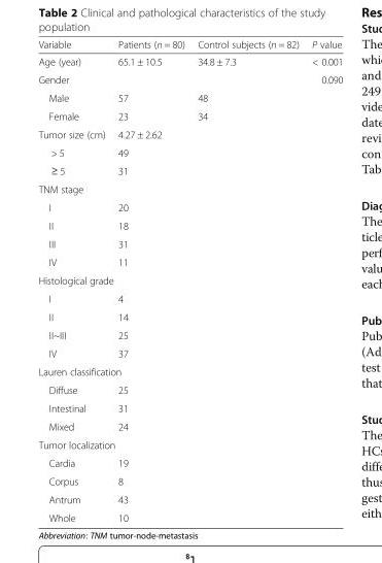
<table><thead><tr><td>Variable</td><td>Patients (n = 80)</td><td>Control subjects (n = 82)</td><td>P value</td></tr></thead><tbody><tr><td>Age (year)</td><td>65.1 ± 10.5</td><td>34.8 ± 7.3</td><td>&lt; 0.001</td></tr><tr><td>Gender</td><td></td><td></td><td>0.090</td></tr><tr><td>Male</td><td>57</td><td>48</td><td></td></tr><tr><td>Female</td><td>23</td><td>34</td><td></td></tr><tr><td>Tumor size (cm)</td><td>4.27 ± 2.62</td><td></td><td></td></tr><tr><td>&gt; 5</td><td>49</td><td></td><td></td></tr><tr><td>≥ 5</td><td>31</td><td></td><td></td></tr><tr><td colspan="4">TNM stage</td></tr><tr><td>I</td><td>20</td><td></td><td></td></tr><tr><td>II</td><td>18</td><td></td><td></td></tr><tr><td>III</td><td>31</td><td></td><td></td></tr><tr><td>IV</td><td>11</td><td></td><td></td></tr><tr><td colspan="4">Histological grade</td></tr><tr><td>I</td><td>4</td><td></td><td></td></tr><tr><td>II</td><td>14</td><td></td><td></td></tr><tr><td>II~III</td><td>25</td><td></td><td></td></tr><tr><td>IV</td><td>37</td><td></td><td></td></tr><tr><td colspan="4">Lauren classification</td></tr><tr><td>Diffuse</td><td>25</td><td></td><td></td></tr><tr><td>Intestinal</td><td>31</td><td></td><td></td></tr><tr><td>Mixed</td><td>24</td><td></td><td></td></tr><tr><td colspan="4">Tumor localization</td></tr><tr><td>Cardia</td><td>19</td><td></td><td></td></tr><tr><td>Corpus</td><td>8</td><td></td><td></td></tr><tr><td>Antrum</td><td>43</td><td></td><td></td></tr><tr><td>Whole</td><td>10</td><td></td><td></td></tr></tbody></table>